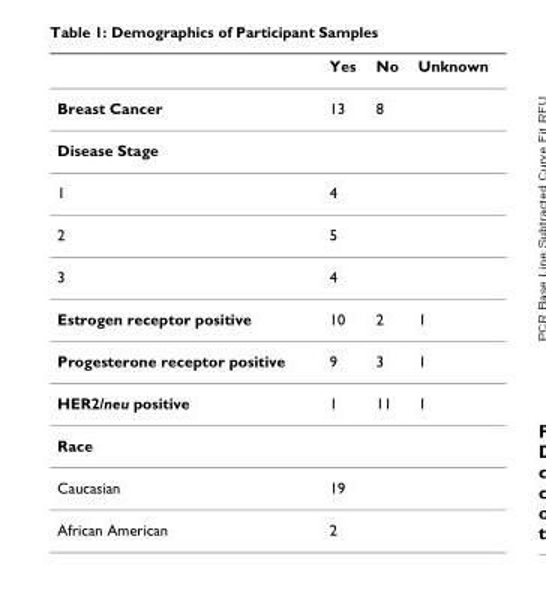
<table><thead><tr><td></td><td>Yes</td><td>No</td><td>Unknown</td></tr></thead><tbody><tr><td>Breast Cancer</td><td>13</td><td>8</td><td></td></tr><tr><td colspan="4">Disease Stage</td></tr><tr><td>1</td><td>4</td><td></td><td></td></tr><tr><td>2</td><td>5</td><td></td><td></td></tr><tr><td>3</td><td>4</td><td></td><td></td></tr><tr><td>Estrogen receptor positive</td><td>10</td><td>2</td><td>1</td></tr><tr><td>Progesterone receptor positive</td><td>9</td><td>3</td><td>1</td></tr><tr><td>HER2/neu positive</td><td>1</td><td>11</td><td>1</td></tr><tr><td colspan="4">Race</td></tr><tr><td>Caucasian</td><td>19</td><td></td><td></td></tr><tr><td>African American</td><td>2</td><td></td><td></td></tr></tbody></table>